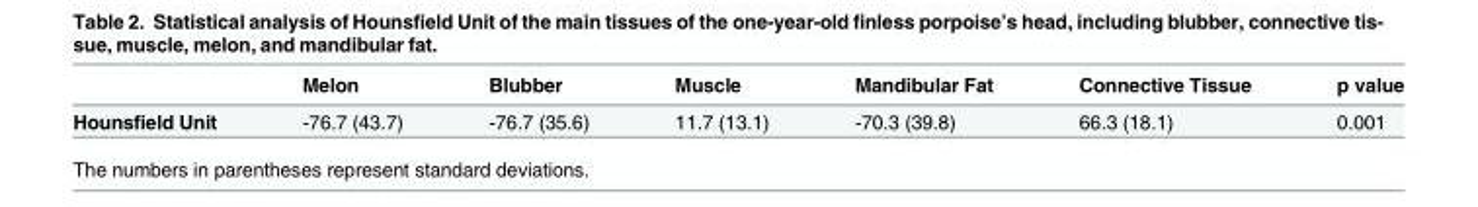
<table><thead><tr><td></td><td>Melon</td><td>Blubber</td><td>Muscle</td><td>Mandibular Fat</td><td>Connective Tissue</td><td>p value</td></tr></thead><tbody><tr><td>Hounsfield Unit</td><td>-76.7 (43.7)</td><td>-76.7 (35.6)</td><td>11.7 (13.1)</td><td>-70.3 (39.8)</td><td>66.3 (18.1)</td><td>0.001</td></tr></tbody></table>